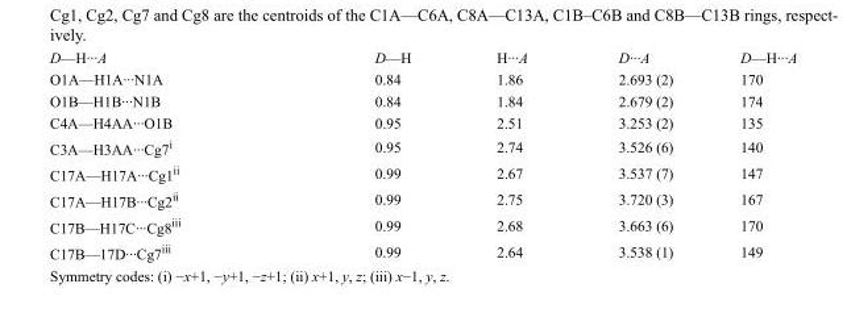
<table><tbody><tr><td>D—H···A</td><td>D—H</td><td>H···A</td><td>D···A</td><td>D—H···A</td></tr><tr><td>O1A—H1A···N1A</td><td>0.84</td><td>1.86</td><td>2.693 (2)</td><td>170</td></tr><tr><td>O1B—H1B···N1B</td><td>0.84</td><td>1.84</td><td>2.679 (2)</td><td>174</td></tr><tr><td>C4A—H4AA···O1B</td><td>0.95</td><td>2.51</td><td>3.253 (2)</td><td>135</td></tr><tr><td>C3A—H3AA···Cg7<sup>i</sup></td><td>0.95</td><td>2.74</td><td>3.526 (6)</td><td>140</td></tr><tr><td>C17A—H17A···Cg1<sup>ii</sup></td><td>0.99</td><td>2.67</td><td>3.537 (7)</td><td>147</td></tr><tr><td>C17A—H17B···Cg2<sup>ii</sup></td><td>0.99</td><td>2.75</td><td>3.720 (3)</td><td>167</td></tr><tr><td>C17B—H17C···Cg8<sup>iii</sup></td><td>0.99</td><td>2.68</td><td>3.663 (6)</td><td>170</td></tr><tr><td>C17B—17D···Cg7<sup>iii</sup></td><td>0.99</td><td>2.64</td><td>3.538 (1)</td><td>149</td></tr></tbody></table>